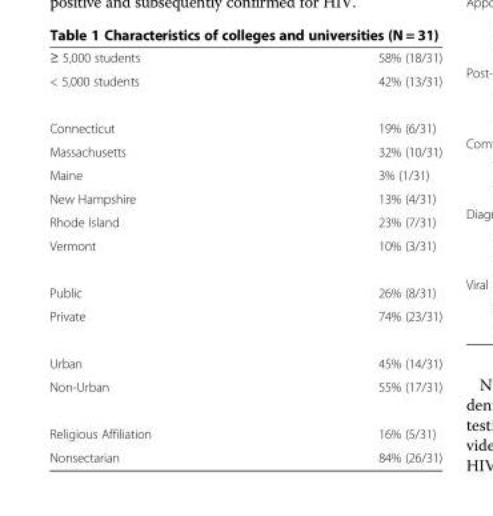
<table><tbody><tr><td>≥ 5,000 students</td><td>58% (18/31)</td></tr><tr><td>&lt; 5,000 students</td><td>42% (13/31)</td></tr><tr><td>Connecticut</td><td>19% (6/31)</td></tr><tr><td>Massachusetts</td><td>32% (10/31)</td></tr><tr><td>Maine</td><td>3% (1/31)</td></tr><tr><td>New Hampshire</td><td>13% (4/31)</td></tr><tr><td>Rhode Island</td><td>23% (7/31)</td></tr><tr><td>Vermont</td><td>10% (3/31)</td></tr><tr><td>Public</td><td>26% (8/31)</td></tr><tr><td>Private</td><td>74% (23/31)</td></tr><tr><td>Urban</td><td>45% (14/31)</td></tr><tr><td>Non-Urban</td><td>55% (17/31)</td></tr><tr><td>Religious Affiliation</td><td>16% (5/31)</td></tr><tr><td>Nonsectarian</td><td>84% (26/31)</td></tr></tbody></table>